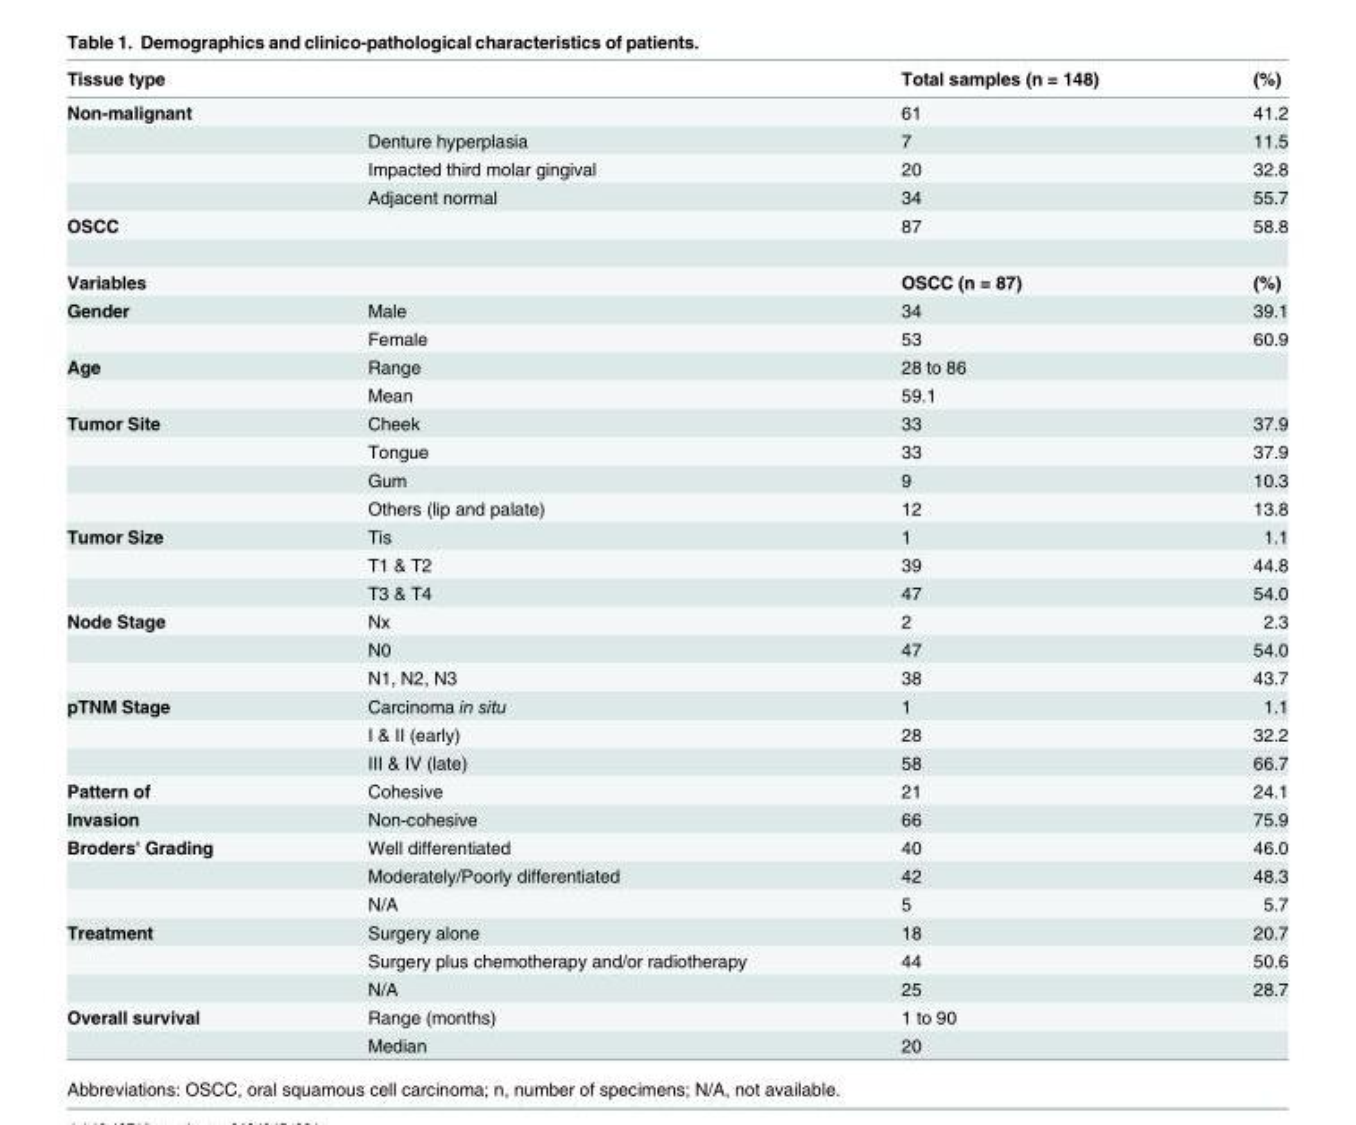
<table><thead><tr><td>Tissue type</td><td></td><td>Total samples (n = 148)</td><td>(%)</td></tr></thead><tbody><tr><td rowspan="4">Non-malignant</td><td></td><td>61</td><td>41.2</td></tr><tr><td>Denture hyperplasia</td><td>7</td><td>11.5</td></tr><tr><td>Impacted third molar gingival</td><td>20</td><td>32.8</td></tr><tr><td>Adjacent normal</td><td>34</td><td>55.7</td></tr><tr><td>OSCC</td><td></td><td>87</td><td>58.8</td></tr><tr><td>Variables</td><td></td><td>OSCC (n = 87)</td><td>(%)</td></tr><tr><td rowspan="2">Gender</td><td>Male</td><td>34</td><td>39.1</td></tr><tr><td>Female</td><td>53</td><td>60.9</td></tr><tr><td rowspan="2">Age</td><td>Range</td><td>28 to 86</td><td></td></tr><tr><td>Mean</td><td>59.1</td><td></td></tr><tr><td rowspan="4">Tumor Site</td><td>Cheek</td><td>33</td><td>37.9</td></tr><tr><td>Tongue</td><td>33</td><td>37.9</td></tr><tr><td>Gum</td><td>9</td><td>10.3</td></tr><tr><td>Others (lip and palate)</td><td>12</td><td>13.8</td></tr><tr><td rowspan="3">Tumor Size</td><td>Tis</td><td>1</td><td>1.1</td></tr><tr><td>T1 &amp; T2</td><td>39</td><td>44.8</td></tr><tr><td>T3 &amp; T4</td><td>47</td><td>54.0</td></tr><tr><td rowspan="3">Node Stage</td><td>Nx</td><td>2</td><td>2.3</td></tr><tr><td>N0</td><td>47</td><td>54.0</td></tr><tr><td>N1, N2, N3</td><td>38</td><td>43.7</td></tr><tr><td rowspan="3">pTNM Stage</td><td>Carcinoma in situ</td><td>1</td><td>1.1</td></tr><tr><td>I &amp; II (early)</td><td>28</td><td>32.2</td></tr><tr><td>III &amp; IV (late)</td><td>58</td><td>66.7</td></tr><tr><td>Pattern of</td><td>Cohesive</td><td>21</td><td>24.1</td></tr><tr><td>Invasion</td><td>Non-cohesive</td><td>66</td><td>75.9</td></tr><tr><td rowspan="3">Broders&#x27; Grading</td><td>Well differentiated</td><td>40</td><td>46.0</td></tr><tr><td>Moderately/Poorly differentiated</td><td>42</td><td>48.3</td></tr><tr><td>N/A</td><td>5</td><td>5.7</td></tr><tr><td rowspan="3">Treatment</td><td>Surgery alone</td><td>18</td><td>20.7</td></tr><tr><td>Surgery plus chemotherapy and/or radiotherapy</td><td>44</td><td>50.6</td></tr><tr><td>N/A</td><td>25</td><td>28.7</td></tr><tr><td rowspan="2">Overall survival</td><td>Range (months)</td><td>1 to 90</td><td></td></tr><tr><td>Median</td><td>20</td><td></td></tr></tbody></table>